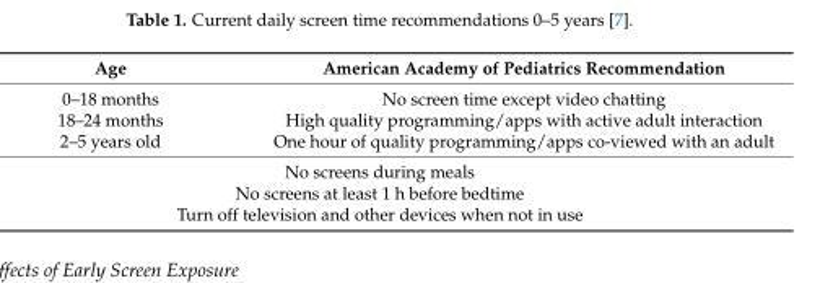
<table><thead><tr><td>Age</td><td>American Academy of Pediatrics Recommendation</td></tr></thead><tbody><tr><td>0–18 months</td><td>No screen time except video chatting</td></tr><tr><td>18–24 months</td><td>High quality programming/apps with active adult interaction</td></tr><tr><td>2–5 years old</td><td>One hour of quality programming/apps co-viewed with an adult</td></tr><tr><td colspan="2">No screens during meals</td></tr><tr><td colspan="2">No screens at least 1 h before bedtime</td></tr><tr><td colspan="2">Turn off television and other devices when not in use</td></tr></tbody></table>